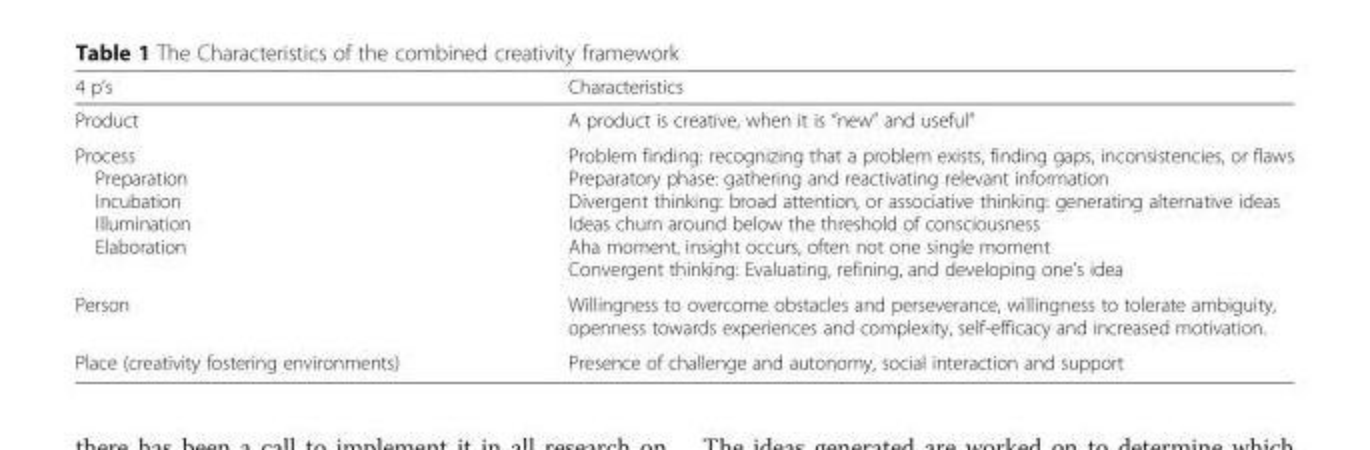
<table><thead><tr><td>4 p’s</td><td>Characteristics</td></tr></thead><tbody><tr><td>Product</td><td>A product is creative, when it is “new” and useful”</td></tr><tr><td>Process Preparation Incubation Illumination Elaboration</td><td>Problem finding: recognizing that a problem exists, finding gaps, inconsistencies, or flaws Preparatory phase: gathering and reactivating relevant information Divergent thinking: broad attention, or associative thinking: generating alternative ideas Ideas churn around below the threshold of consciousness Aha moment, insight occurs, often not one single moment Convergent thinking: Evaluating, refining, and developing one’s idea</td></tr><tr><td>Person</td><td>Willingness to overcome obstacles and perseverance, willingness to tolerate ambiguity, openness towards experiences and complexity, self-efficacy and increased motivation.</td></tr><tr><td>Place (creativity fostering environments)</td><td>Presence of challenge and autonomy, social interaction and support</td></tr></tbody></table>